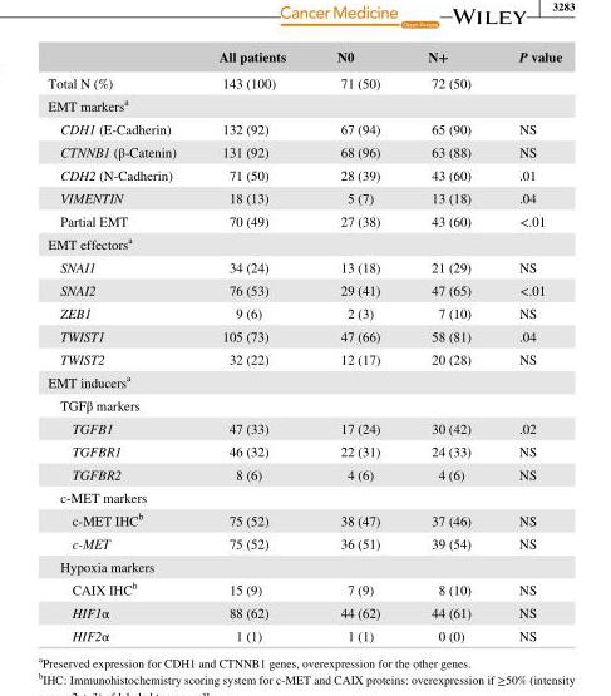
<table><thead><tr><td></td><td>All patients</td><td>N0</td><td>N+</td><td>P value</td></tr></thead><tbody><tr><td>Total N (%)</td><td>143 (100)</td><td>71 (50)</td><td>72 (50)</td><td></td></tr><tr><td colspan="5">EMT markers<sup>a</sup></td></tr><tr><td>CDH1 (E- Cadherin)</td><td>132 (92)</td><td>67 (94)</td><td>65 (90)</td><td>NS</td></tr><tr><td>CTNNB1 (β- Catenin)</td><td>131 (92)</td><td>68 (96)</td><td>63 (88)</td><td>NS</td></tr><tr><td>CDH2 (N- Cadherin)</td><td>71 (50)</td><td>28 (39)</td><td>43 (60)</td><td>.01</td></tr><tr><td>VIMENTIN</td><td>18 (13)</td><td>5 (7)</td><td>13 (18)</td><td>.04</td></tr><tr><td>Partial EMT</td><td>70 (49)</td><td>27 (38)</td><td>43 (60)</td><td>&lt;.01</td></tr><tr><td colspan="5">EMT effectors<sup>a</sup></td></tr><tr><td>SNAI1</td><td>34 (24)</td><td>13 (18)</td><td>21 (29)</td><td>NS</td></tr><tr><td>SNAI2</td><td>76 (53)</td><td>29 (41)</td><td>47 (65)</td><td>&lt;.01</td></tr><tr><td>ZEB1</td><td>9 (6)</td><td>2 (3)</td><td>7 (10)</td><td>NS</td></tr><tr><td>TWIST1</td><td>105 (73)</td><td>47 (66)</td><td>58 (81)</td><td>.04</td></tr><tr><td>TWIST2</td><td>32 (22)</td><td>12 (17)</td><td>20 (28)</td><td>NS</td></tr><tr><td colspan="5">EMT inducers<sup>a</sup></td></tr><tr><td colspan="5">TGFβ markers</td></tr><tr><td>TGFB1</td><td>47 (33)</td><td>17 (24)</td><td>30 (42)</td><td>.02</td></tr><tr><td>TGFBR1</td><td>46 (32)</td><td>22 (31)</td><td>24 (33)</td><td>NS</td></tr><tr><td>TGFBR2</td><td>8 (6)</td><td>4 (6)</td><td>4 (6)</td><td>NS</td></tr><tr><td colspan="5">c- MET markers</td></tr><tr><td>c- MET IHC<sup>b</sup></td><td>75 (52)</td><td>38 (47)</td><td>37 (46)</td><td>NS</td></tr><tr><td>c-MET</td><td>75 (52)</td><td>36 (51)</td><td>39 (54)</td><td>NS</td></tr><tr><td colspan="5">Hypoxia markers</td></tr><tr><td>CAIX IHC<sup>b</sup></td><td>15 (9)</td><td>7 (9)</td><td>8 (10)</td><td>NS</td></tr><tr><td>HIF1α</td><td>88 (62)</td><td>44 (62)</td><td>44 (61)</td><td>NS</td></tr><tr><td>HIF2α</td><td>1 (1)</td><td>1 (1)</td><td>0 (0)</td><td>NS</td></tr></tbody></table>